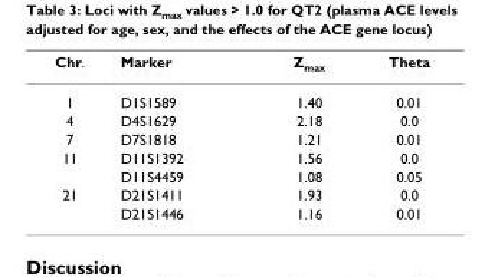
<table><thead><tr><td>Chr.</td><td>Marker</td><td>Z<sub>max</sub></td><td>Theta</td></tr></thead><tbody><tr><td>1</td><td>D1S1589</td><td>1.40</td><td>0.01</td></tr><tr><td>4</td><td>D4S1629</td><td>2.18</td><td>0.0</td></tr><tr><td>7</td><td>D7S1818</td><td>1.21</td><td>0.01</td></tr><tr><td rowspan="2">11</td><td>D11S1392</td><td>1.56</td><td>0.0</td></tr><tr><td>D11S4459</td><td>1.08</td><td>0.05</td></tr><tr><td rowspan="2">21</td><td>D21S1411</td><td>1.93</td><td>0.0</td></tr><tr><td>D21S1446</td><td>1.16</td><td>0.01</td></tr></tbody></table>